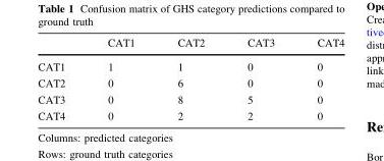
<table><thead><tr><td></td><td>CAT1</td><td>CAT2</td><td>CAT3</td><td>CAT4</td></tr></thead><tbody><tr><td>CAT1</td><td>1</td><td>1</td><td>0</td><td>0</td></tr><tr><td>CAT2</td><td>0</td><td>6</td><td>0</td><td>0</td></tr><tr><td>CAT3</td><td>0</td><td>8</td><td>5</td><td>0</td></tr><tr><td>CAT4</td><td>0</td><td>2</td><td>2</td><td>0</td></tr></tbody></table>